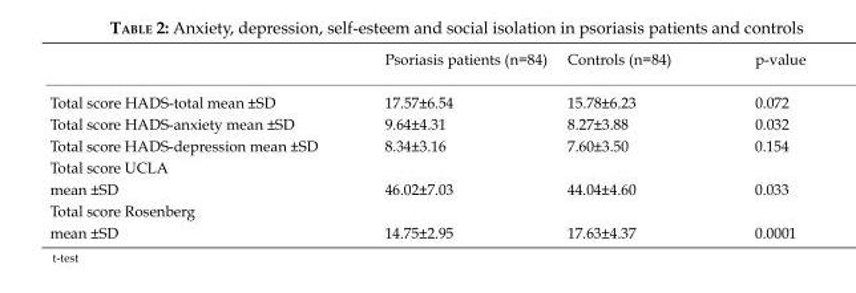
<table><thead><tr><td></td><td>Psoriasis patients (n=84)</td><td>Controls (n=84)</td><td>p-value</td></tr></thead><tbody><tr><td>Total score HADS-total mean ±SD</td><td>17.57±6.54</td><td>15.78±6.23</td><td>0.072</td></tr><tr><td>Total score HADS-anxiety mean ±SD</td><td>9.64±4.31</td><td>8.27±3.88</td><td>0.032</td></tr><tr><td>Total score HADS-depression mean ±SD</td><td>8.34±3.16</td><td>7.60±3.50</td><td>0.154</td></tr><tr><td>Total score UCLA mean ±SD</td><td>46.02±7.03</td><td>44.04±4.60</td><td>0.033</td></tr><tr><td>Total score Rosenberg mean ±SD</td><td>14.75±2.95</td><td>17.63±4.37</td><td>0.0001</td></tr></tbody></table>